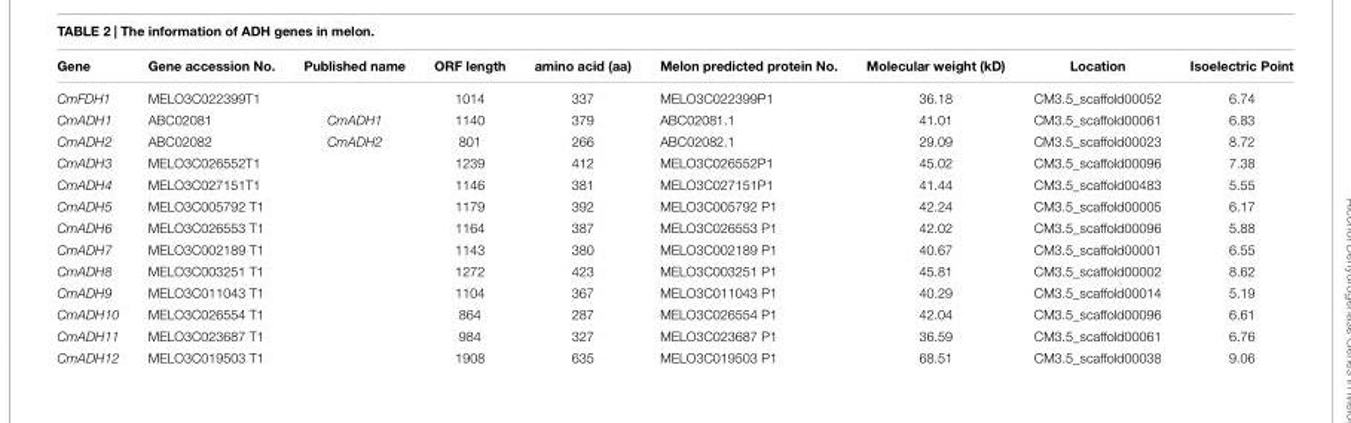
<table><thead><tr><td>Gene</td><td>Gene accession No.</td><td>Published name</td><td>ORF length</td><td>amino acid (aa)</td><td>Melon predicted protein No.</td><td>Molecular weight (kD)</td><td>Location</td><td>Isoelectric Point</td></tr></thead><tbody><tr><td>CmFDH1</td><td>MELO3C022399T1</td><td></td><td>1014</td><td>337</td><td>MELO3C022399P1</td><td>36.18</td><td>CM3.5_scaffold00052</td><td>6.74</td></tr><tr><td>CmADH1</td><td>ABC02081</td><td>CmADH1</td><td>1140</td><td>379</td><td>ABC02081.1</td><td>41.01</td><td>CM3.5_scaffold00061</td><td>6.83</td></tr><tr><td>CmADH2</td><td>ABC02082</td><td>CmADH2</td><td>801</td><td>266</td><td>ABC02082.1</td><td>29.09</td><td>CM3.5_scaffold00023</td><td>8.72</td></tr><tr><td>CmADH3</td><td>MELO3C026552T1</td><td></td><td>1239</td><td>412</td><td>MELO3C026552P1</td><td>45.02</td><td>CM3.5_scaffold00096</td><td>7.38</td></tr><tr><td>CmADH4</td><td>MELO3C027151T1</td><td></td><td>1146</td><td>381</td><td>MELO3C027151P1</td><td>41.44</td><td>CM3.5_scaffold00483</td><td>5.55</td></tr><tr><td>CmADH5</td><td>MELO3C005792 T1</td><td></td><td>1179</td><td>392</td><td>MELO3C005792 P1</td><td>42.24</td><td>CM3.5_scaffold00005</td><td>6.17</td></tr><tr><td>CmADH6</td><td>MELO3C026553 T1</td><td></td><td>1164</td><td>387</td><td>MELO3C026553 P1</td><td>42.02</td><td>CM3.5_scaffold00096</td><td>5.88</td></tr><tr><td>CmADH7</td><td>MELO3C002189 T1</td><td></td><td>1143</td><td>380</td><td>MELO3C002189 P1</td><td>40.67</td><td>CM3.5_scaffold00001</td><td>6.55</td></tr><tr><td>CmADH8</td><td>MELO3C003251 T1</td><td></td><td>1272</td><td>423</td><td>MELO3C003251 P1</td><td>45.81</td><td>CM3.5_scaffold00002</td><td>8.62</td></tr><tr><td>CmADH9</td><td>MELO3C011043 T1</td><td></td><td>1104</td><td>367</td><td>MELO3C011043 P1</td><td>40.29</td><td>CM3.5_scaffold00014</td><td>5.19</td></tr><tr><td>CmADH10</td><td>MELO3C026554 T1</td><td></td><td>864</td><td>287</td><td>MELO3C026554 P1</td><td>42.04</td><td>CM3.5_scaffold00096</td><td>6.61</td></tr><tr><td>CmADH11</td><td>MELO3C023687 T1</td><td></td><td>984</td><td>327</td><td>MELO3C023687 P1</td><td>36.59</td><td>CM3.5_scaffold00061</td><td>6.76</td></tr><tr><td>CmADH12</td><td>MELO3C019503 T1</td><td></td><td>1908</td><td>635</td><td>MELO3C019503 P1</td><td>68.51</td><td>CM3.5_scaffold00038</td><td>9.06</td></tr></tbody></table>